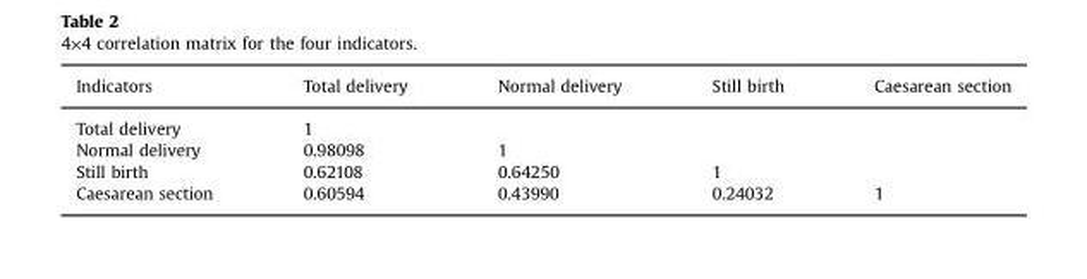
<table><thead><tr><td>Indicators</td><td>Total delivery</td><td>Normal delivery</td><td>Still birth</td><td>Caesarean section</td></tr></thead><tbody><tr><td>Total delivery</td><td>1</td><td></td><td></td><td></td></tr><tr><td>Normal delivery</td><td>0.98098</td><td>1</td><td></td><td></td></tr><tr><td>Still birth</td><td>0.62108</td><td>0.64250</td><td>1</td><td></td></tr><tr><td>Caesarean section</td><td>0.60594</td><td>0.43990</td><td>0.24032</td><td>1</td></tr></tbody></table>